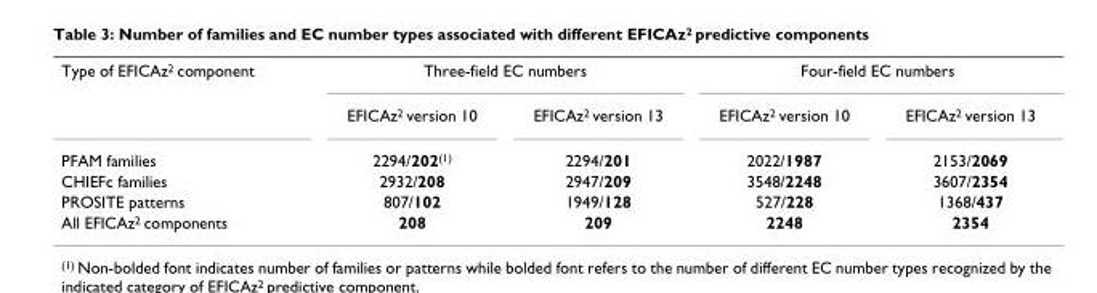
<table><tbody><tr><td rowspan="2">Type of EFICAz<sup>2</sup> component</td><td colspan="2">Three-field EC numbers</td><td colspan="2">Four-field EC numbers</td></tr><tr><td>EFICAz<sup>2</sup> version 10</td><td>EFICAz<sup>2</sup> version 13</td><td>EFICAz<sup>2</sup> version 10</td><td>EFICAz<sup>2</sup> version 13</td></tr><tr><td>PFAM families</td><td>2294/202<sup>(1)</sup></td><td>2294/201</td><td>2022/1987</td><td>2153/2069</td></tr><tr><td>CHIEFc families</td><td>2932/208</td><td>2947/209</td><td>3548/2248</td><td>3607/2354</td></tr><tr><td>PROSITE patterns</td><td>807/102</td><td>1949/128</td><td>527/228</td><td>1368/437</td></tr><tr><td>All EFICAz<sup>2</sup> components</td><td>208</td><td>209</td><td>2248</td><td>2354</td></tr></tbody></table>